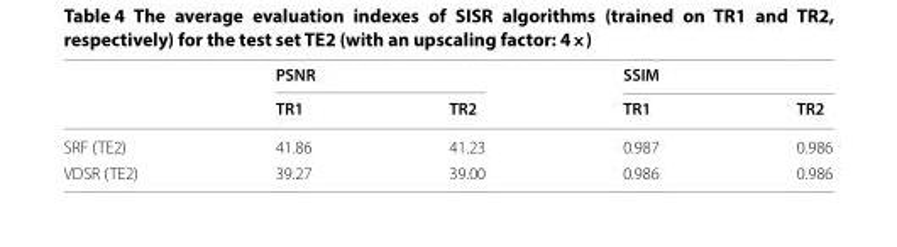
<table><thead><tr><td rowspan="2"></td><td colspan="2">PSNR</td><td colspan="2">SSIM</td></tr><tr><td>TR1</td><td>TR2</td><td>TR1</td><td>TR2</td></tr></thead><tbody><tr><td>SRF (TE2)</td><td>41.86</td><td>41.23</td><td>0.987</td><td>0.986</td></tr><tr><td>VDSR (TE2)</td><td>39.27</td><td>39.00</td><td>0.986</td><td>0.986</td></tr></tbody></table>